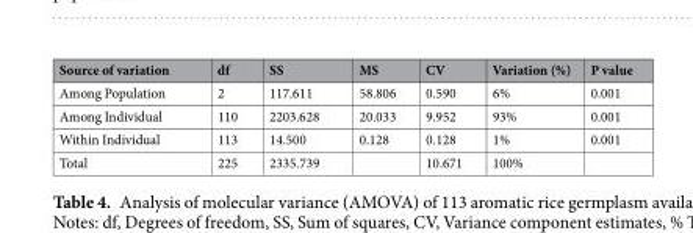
<table><thead><tr><td>Source of variation</td><td>df</td><td>SS</td><td>MS</td><td>CV</td><td>Variation (%)</td><td>P value</td></tr></thead><tbody><tr><td>Among Population</td><td>2</td><td>117.611</td><td>58.806</td><td>0.590</td><td>6%</td><td>0.001</td></tr><tr><td>Among Individual</td><td>110</td><td>2203.628</td><td>20.033</td><td>9.952</td><td>93%</td><td>0.001</td></tr><tr><td>Within Individual</td><td>113</td><td>14.500</td><td>0.128</td><td>0.128</td><td>1%</td><td>0.001</td></tr><tr><td>Total</td><td>225</td><td>2335.739</td><td></td><td>10.671</td><td>100%</td><td></td></tr></tbody></table>